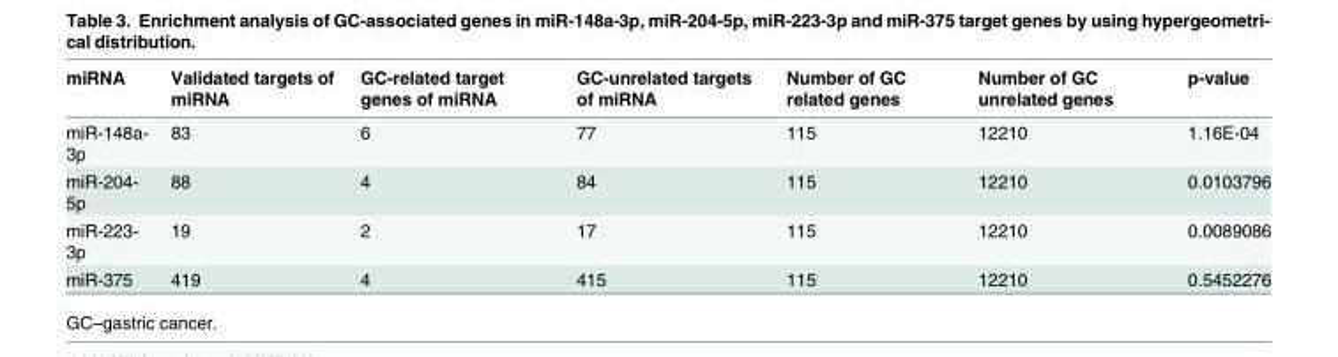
<table><thead><tr><td>miRNA</td><td>Validated targets of miRNA</td><td>GC-related target genes of miRNA</td><td>GC-unrelated targets of miRNA</td><td>Number of GC related genes</td><td>Number of GC unrelated genes</td><td>p-value</td></tr></thead><tbody><tr><td>miR-148a- 3p</td><td>83</td><td>6</td><td>77</td><td>115</td><td>12210</td><td>1.16E-04</td></tr><tr><td>miR-204- 5p</td><td>88</td><td>4</td><td>84</td><td>115</td><td>12210</td><td>0.0103796</td></tr><tr><td>miR-223- 3p</td><td>19</td><td>2</td><td>17</td><td>115</td><td>12210</td><td>0.0089086</td></tr><tr><td>miR-375</td><td>419</td><td>4</td><td>415</td><td>115</td><td>12210</td><td>0.5452276</td></tr></tbody></table>